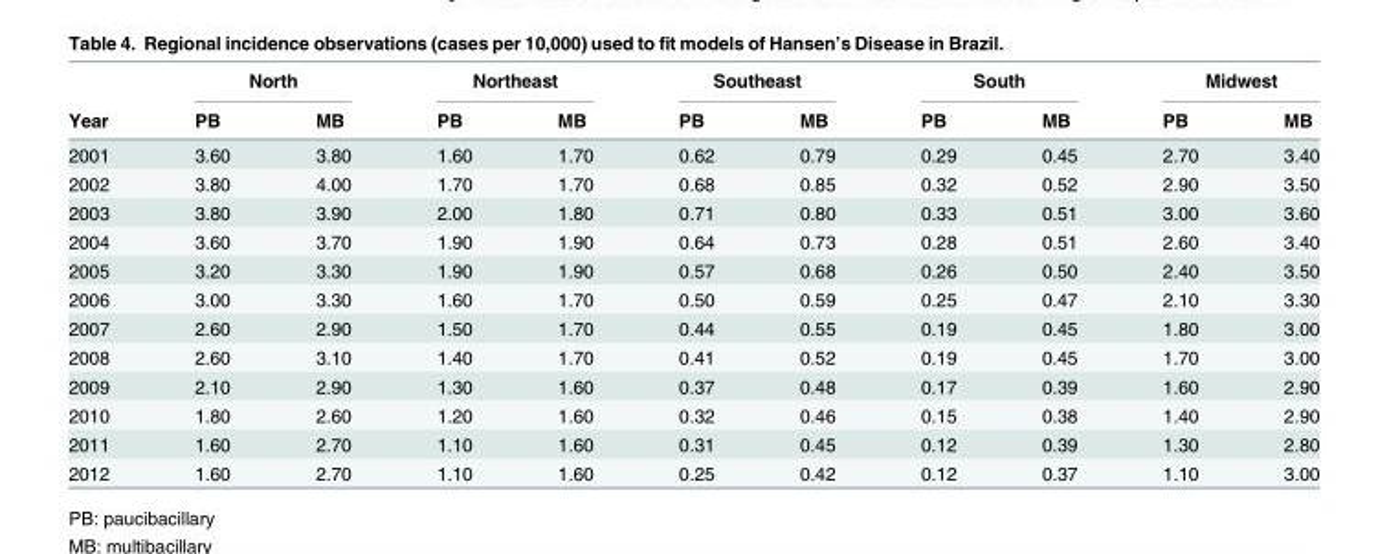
<table><thead><tr><td rowspan="2">Year</td><td colspan="2">North</td><td colspan="2">Northeast</td><td colspan="2">Southeast</td><td colspan="2">South</td><td colspan="2">Midwest</td></tr><tr><td>PB</td><td>MB</td><td>PB</td><td>MB</td><td>PB</td><td>MB</td><td>PB</td><td>MB</td><td>PB</td><td>MB</td></tr></thead><tbody><tr><td>2001</td><td>3.60</td><td>3.80</td><td>1.60</td><td>1.70</td><td>0.62</td><td>0.79</td><td>0.29</td><td>0.45</td><td>2.70</td><td>3.40</td></tr><tr><td>2002</td><td>3.80</td><td>4.00</td><td>1.70</td><td>1.70</td><td>0.68</td><td>0.85</td><td>0.32</td><td>0.52</td><td>2.90</td><td>3.50</td></tr><tr><td>2003</td><td>3.80</td><td>3.90</td><td>2.00</td><td>1.80</td><td>0.71</td><td>0.80</td><td>0.33</td><td>0.51</td><td>3.00</td><td>3.60</td></tr><tr><td>2004</td><td>3.60</td><td>3.70</td><td>1.90</td><td>1.90</td><td>0.64</td><td>0.73</td><td>0.28</td><td>0.51</td><td>2.60</td><td>3.40</td></tr><tr><td>2005</td><td>3.20</td><td>3.30</td><td>1.90</td><td>1.90</td><td>0.57</td><td>0.68</td><td>0.26</td><td>0.50</td><td>2.40</td><td>3.50</td></tr><tr><td>2006</td><td>3.00</td><td>3.30</td><td>1.60</td><td>1.70</td><td>0.50</td><td>0.59</td><td>0.25</td><td>0.47</td><td>2.10</td><td>3.30</td></tr><tr><td>2007</td><td>2.60</td><td>2.90</td><td>1.50</td><td>1.70</td><td>0.44</td><td>0.55</td><td>0.19</td><td>0.45</td><td>1.80</td><td>3.00</td></tr><tr><td>2008</td><td>2.60</td><td>3.10</td><td>1.40</td><td>1.70</td><td>0.41</td><td>0.52</td><td>0.19</td><td>0.45</td><td>1.70</td><td>3.00</td></tr><tr><td>2009</td><td>2.10</td><td>2.90</td><td>1.30</td><td>1.60</td><td>0.37</td><td>0.48</td><td>0.17</td><td>0.39</td><td>1.60</td><td>2.90</td></tr><tr><td>2010</td><td>1.80</td><td>2.60</td><td>1.20</td><td>1.60</td><td>0.32</td><td>0.46</td><td>0.15</td><td>0.38</td><td>1.40</td><td>2.90</td></tr><tr><td>2011</td><td>1.60</td><td>2.70</td><td>1.10</td><td>1.60</td><td>0.31</td><td>0.45</td><td>0.12</td><td>0.39</td><td>1.30</td><td>2.80</td></tr><tr><td>2012</td><td>1.60</td><td>2.70</td><td>1.10</td><td>1.60</td><td>0.25</td><td>0.42</td><td>0.12</td><td>0.37</td><td>1.10</td><td>3.00</td></tr></tbody></table>